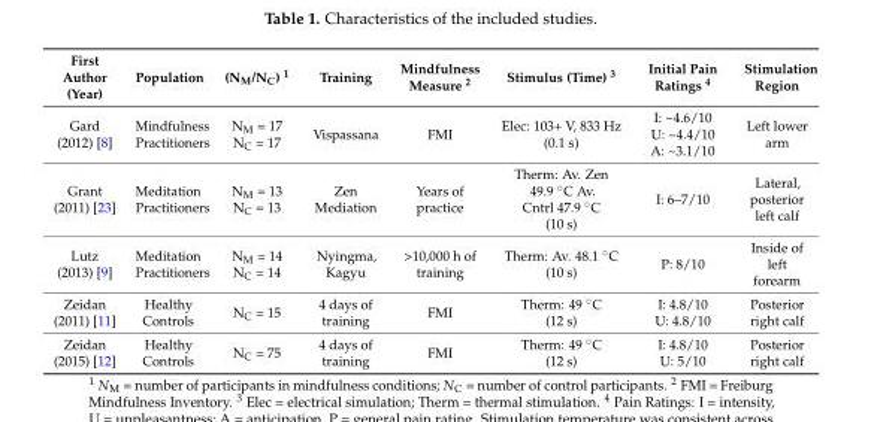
<table><thead><tr><td>First Author (Year)</td><td>Population</td><td>(N<sub>M</sub>/N<sub>C</sub>) <sup>1</sup></td><td>Training</td><td>Mindfulness Measure <sup>2</sup></td><td>Stimulus (Time) <sup>3</sup></td><td>Initial Pain Ratings <sup>4</sup></td><td>Stimulation Region</td></tr></thead><tbody><tr><td>Gard (2012) [8]</td><td>Mindfulness Practitioners</td><td>N<sub>M</sub> = 17 N<sub>C</sub> = 17</td><td>Vispassana</td><td>FMI</td><td>Elec: 103+ V, 833 Hz (0.1 s)</td><td>I: ~4.6/10 U: ~4.4/10 A: ~3.1/10</td><td>Left lower arm</td></tr><tr><td>Grant (2011) [23]</td><td>Meditation Practitioners</td><td>N<sub>M</sub> = 13 N<sub>C</sub> = 13</td><td>Zen Mediation</td><td>Years of practice</td><td>Therm: Av. Zen 49.9 ˝C Av. Cntrl 47.9 ˝C (10 s)</td><td>I: 6–7/10</td><td>Lateral, posterior left calf</td></tr><tr><td>Lutz (2013) [9]</td><td>Meditation Practitioners</td><td>N<sub>M</sub> = 14 N<sub>C</sub> = 14</td><td>Nyingma, Kagyu</td><td>&gt;10,000 h of training</td><td>Therm: Av. 48.1 ˝C (10 s)</td><td>P: 8/10</td><td>Inside of left forearm</td></tr><tr><td>Zeidan (2011) [11]</td><td>Healthy Controls</td><td>N<sub>C</sub> = 15</td><td>4 days of training</td><td>FMI</td><td>Therm: 49 ˝C (12 s)</td><td>I: 4.8/10 U: 4.8/10</td><td>Posterior right calf</td></tr><tr><td>Zeidan (2015) [12]</td><td>Healthy Controls</td><td>N<sub>C</sub> = 75</td><td>4 days of training</td><td>FMI</td><td>Therm: 49 ˝C (12 s)</td><td>I: 4.8/10 U: 5/10</td><td>Posterior right calf</td></tr></tbody></table>